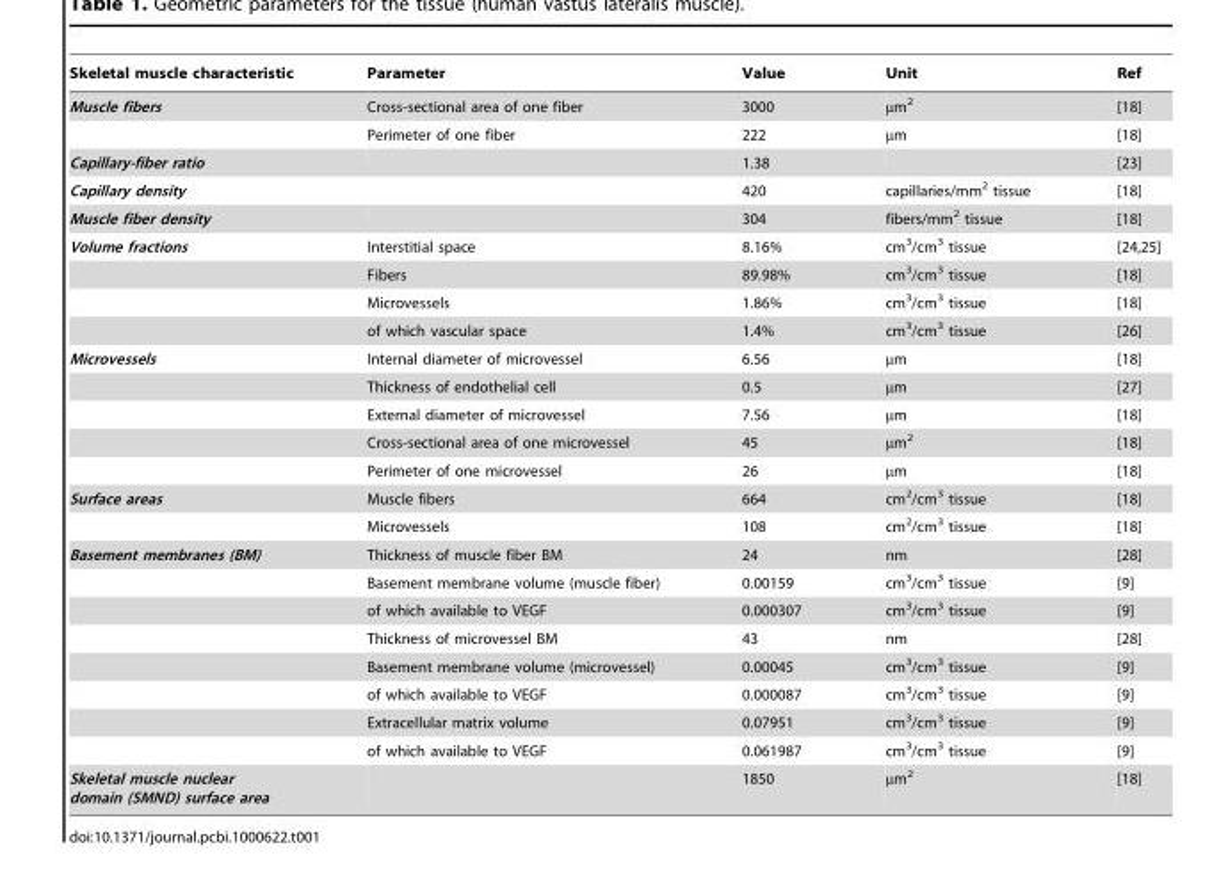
<table><thead><tr><td>Skeletal muscle characteristic</td><td>Parameter</td><td>Value</td><td>Unit</td><td>Ref</td></tr></thead><tbody><tr><td rowspan="2">Muscle fibers</td><td>Cross-sectional area of one fiber</td><td>3000</td><td>µm<sup>2</sup></td><td>[18]</td></tr><tr><td>Perimeter of one fiber</td><td>222</td><td>µm</td><td>[18]</td></tr><tr><td>Capillary-fiber ratio</td><td></td><td>1.38</td><td></td><td>[23]</td></tr><tr><td>Capillary density</td><td></td><td>420</td><td>capillaries/mm<sup>2</sup> tissue</td><td>[18]</td></tr><tr><td>Muscle fiber density</td><td></td><td>304</td><td>fibers/mm<sup>2</sup> tissue</td><td>[18]</td></tr><tr><td rowspan="4">Volume fractions</td><td>Interstitial space</td><td>8.16%</td><td>cm<sup>3</sup>/cm<sup>3</sup> tissue</td><td>[24,25]</td></tr><tr><td>Fibers</td><td>89.98%</td><td>cm<sup>3</sup>/cm<sup>3</sup> tissue</td><td>[18]</td></tr><tr><td>Microvessels</td><td>1.86%</td><td>cm<sup>3</sup>/cm<sup>3</sup> tissue</td><td>[18]</td></tr><tr><td>of which vascular space</td><td>1.4%</td><td>cm<sup>3</sup>/cm<sup>3</sup> tissue</td><td>[26]</td></tr><tr><td rowspan="5">Microvessels</td><td>Internal diameter of microvessel</td><td>6.56</td><td>µm</td><td>[18]</td></tr><tr><td>Thickness of endothelial cell</td><td>0.5</td><td>µm</td><td>[27]</td></tr><tr><td>External diameter of microvessel</td><td>7.56</td><td>µm</td><td>[18]</td></tr><tr><td>Cross-sectional area of one microvessel</td><td>45</td><td>µm<sup>2</sup></td><td>[18]</td></tr><tr><td>Perimeter of one microvessel</td><td>26</td><td>µm</td><td>[18]</td></tr><tr><td rowspan="2">Surface areas</td><td>Muscle fibers</td><td>664</td><td>cm<sup>2</sup>/cm<sup>3</sup> tissue</td><td>[18]</td></tr><tr><td>Microvessels</td><td>108</td><td>cm<sup>2</sup>/cm<sup>3</sup> tissue</td><td>[18]</td></tr><tr><td rowspan="8">Basement membranes (BM)</td><td>Thickness of muscle fiber BM</td><td>24</td><td>nm</td><td>[28]</td></tr><tr><td>Basement membrane volume (muscle fiber)</td><td>0.00159</td><td>cm<sup>3</sup>/cm<sup>3</sup> tissue</td><td>[9]</td></tr><tr><td>of which available to VEGF</td><td>0.000307</td><td>cm<sup>3</sup>/cm<sup>3</sup> tissue</td><td>[9]</td></tr><tr><td>Thickness of microvessel BM</td><td>43</td><td>nm</td><td>[28]</td></tr><tr><td>Basement membrane volume (microvessel)</td><td>0.00045</td><td>cm<sup>3</sup>/cm<sup>3</sup> tissue</td><td>[9]</td></tr><tr><td>of which available to VEGF</td><td>0.000087</td><td>cm<sup>3</sup>/cm<sup>3</sup> tissue</td><td>[9]</td></tr><tr><td>Extracellular matrix volume</td><td>0.07951</td><td>cm<sup>3</sup>/cm<sup>3</sup> tissue</td><td>[9]</td></tr><tr><td>of which available to VEGF</td><td>0.061987</td><td>cm<sup>3</sup>/cm<sup>3</sup> tissue</td><td>[9]</td></tr><tr><td>Skeletal muscle nuclear domain (SMND) surface area</td><td></td><td>1850</td><td>µm<sup>2</sup></td><td>[18]</td></tr></tbody></table>